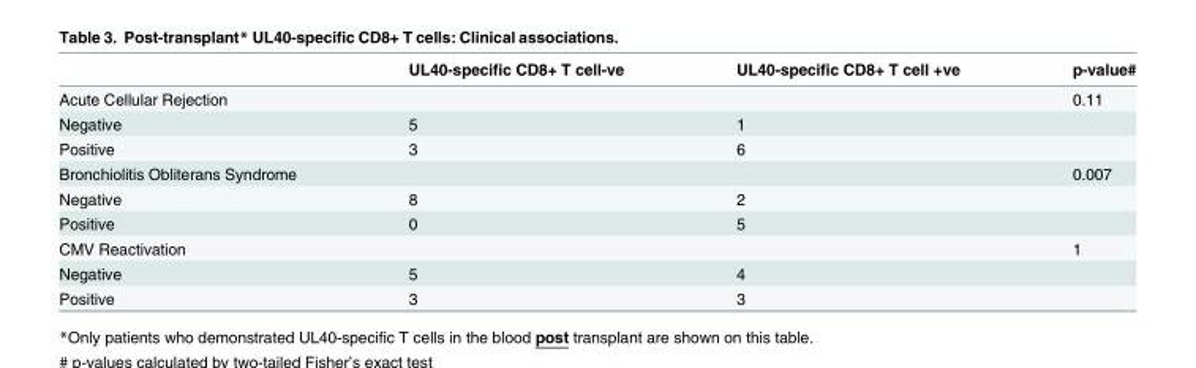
<table><thead><tr><td></td><td>UL40-specific CD8+ T cell-ve</td><td>UL40-specific CD8+ T cell +ve</td><td>p-value#</td></tr></thead><tbody><tr><td>Acute Cellular Rejection</td><td></td><td></td><td>0.11</td></tr><tr><td>Negative</td><td>5</td><td>1</td><td></td></tr><tr><td>Positive</td><td>3</td><td>6</td><td></td></tr><tr><td>Bronchiolitis Obliterans Syndrome</td><td></td><td></td><td>0.007</td></tr><tr><td>Negative</td><td>8</td><td>2</td><td></td></tr><tr><td>Positive</td><td>0</td><td>5</td><td></td></tr><tr><td>CMV Reactivation</td><td></td><td></td><td>1</td></tr><tr><td>Negative</td><td>5</td><td>4</td><td></td></tr><tr><td>Positive</td><td>3</td><td>3</td><td></td></tr></tbody></table>